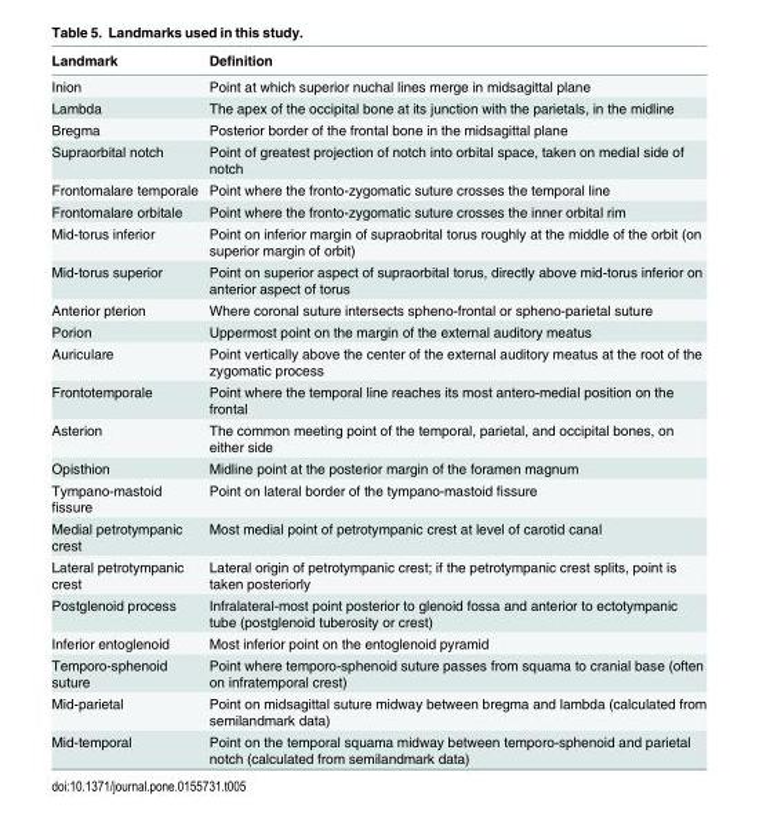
<table><thead><tr><td>Landmark</td><td>Definition</td></tr></thead><tbody><tr><td>Inion</td><td>Point at which superior nuchal lines merge in midsagittal plane</td></tr><tr><td>Lambda</td><td>The apex of the occipital bone at its junction with the parietals, in the midline</td></tr><tr><td>Bregma</td><td>Posterior border of the frontal bone in the midsagittal plane</td></tr><tr><td>Supraorbital notch</td><td>Point of greatest projection of notch into orbital space, taken on medial side of notch</td></tr><tr><td>Frontomalare temporale</td><td>Point where the fronto-zygomatic suture crosses the temporal line</td></tr><tr><td>Frontomalare orbitale</td><td>Point where the fronto-zygomatic suture crosses the inner orbital rim</td></tr><tr><td>Mid-torus inferior</td><td>Point on inferior margin of supraobrital torus roughly at the middle of the orbit (on superior margin of orbit)</td></tr><tr><td>Mid-torus superior</td><td>Point on superior aspect of supraorbital torus, directly above mid-torus inferior on anterior aspect of torus</td></tr><tr><td>Anterior pterion</td><td>Where coronal suture intersects spheno-frontal or spheno-parietal suture</td></tr><tr><td>Porion</td><td>Uppermost point on the margin of the external auditory meatus</td></tr><tr><td>Auriculare</td><td>Point vertically above the center of the external auditory meatus at the root of the zygomatic process</td></tr><tr><td>Frontotemporale</td><td>Point where the temporal line reaches its most antero-medial position on the frontal</td></tr><tr><td>Asterion</td><td>The common meeting point of the temporal, parietal, and occipital bones, on either side</td></tr><tr><td>Opisthion</td><td>Midline point at the posterior margin of the foramen magnum</td></tr><tr><td>Tympano-mastoid fissure</td><td>Point on lateral border of the tympano-mastoid fissure</td></tr><tr><td>Medial petrotympanic crest</td><td>Most medial point of petrotympanic crest at level of carotid canal</td></tr><tr><td>Lateral petrotympanic crest</td><td>Lateral origin of petrotympanic crest; if the petrotympanic crest splits, point is taken posteriorly</td></tr><tr><td>Postglenoid process</td><td>Infralateral-most point posterior to glenoid fossa and anterior to ectotympanic tube (postglenoid tuberosity or crest)</td></tr><tr><td>Inferior entoglenoid</td><td>Most inferior point on the entoglenoid pyramid</td></tr><tr><td>Temporo-sphenoid suture</td><td>Point where temporo-sphenoid suture passes from squama to cranial base (often on infratemporal crest)</td></tr><tr><td>Mid-parietal</td><td>Point on midsagittal suture midway between bregma and lambda (calculated from semilandmark data)</td></tr><tr><td>Mid-temporal</td><td>Point on the temporal squama midway between temporo-sphenoid and parietal notch (calculated from semilandmark data)</td></tr></tbody></table>